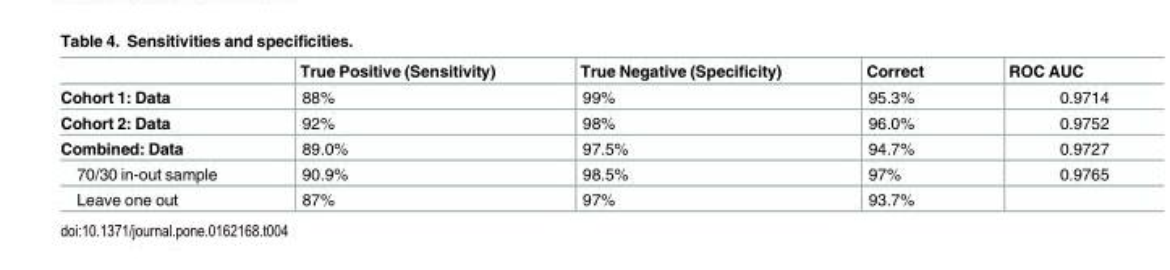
<table><thead><tr><td></td><td>True Positive (Sensitivity)</td><td>True Negative (Specificity)</td><td>Correct</td><td>ROC AUC</td></tr></thead><tbody><tr><td>Cohort 1: Data</td><td>88%</td><td>99%</td><td>95.3%</td><td>0.9714</td></tr><tr><td>Cohort 2: Data</td><td>92%</td><td>98%</td><td>96.0%</td><td>0.9752</td></tr><tr><td>Combined: Data</td><td>89.0%</td><td>97.5%</td><td>94.7%</td><td>0.9727</td></tr><tr><td>70/30 in-out sample</td><td>90.9%</td><td>98.5%</td><td>97%</td><td>0.9765</td></tr><tr><td>Leave one out</td><td>87%</td><td>97%</td><td>93.7%</td><td></td></tr></tbody></table>